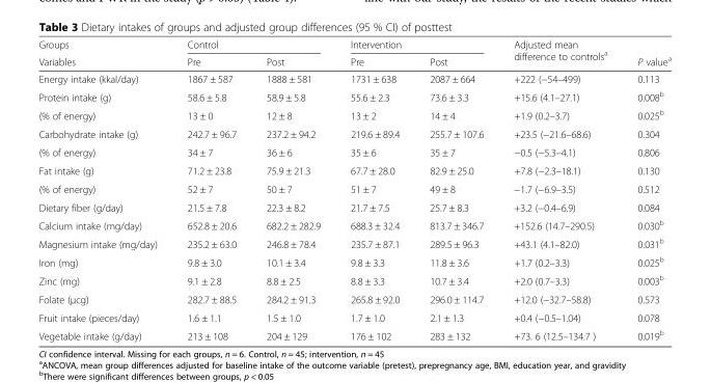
<table><thead><tr><td rowspan="2">Groups Variables</td><td colspan="2">Control</td><td colspan="2">Intervention</td><td rowspan="2">Adjusted mean difference to controls<sup>a</sup></td><td rowspan="2">P value<sup>a</sup></td></tr><tr><td>Pre</td><td>Post</td><td>Pre</td><td>Post</td></tr></thead><tbody><tr><td>Energy intake (kkal/day)</td><td>1867 ± 587</td><td>1888 ± 581</td><td>1731 ± 638</td><td>2087 ± 664</td><td>+222 (−54–499)</td><td>0.113</td></tr><tr><td>Protein intake (g)</td><td>58.6 ± 5.8</td><td>58.9 ± 5.8</td><td>55.6 ± 2.3</td><td>73.6 ± 3.3</td><td>+15.6 (4.1–27.1)</td><td>0.008<sup>b</sup></td></tr><tr><td>(% of energy)</td><td>13 ± 0</td><td>12 ± 8</td><td>13 ± 2</td><td>14 ± 4</td><td>+1.9 (0.2–3.7)</td><td>0.025<sup>b</sup></td></tr><tr><td>Carbohydrate intake (g)</td><td>242.7 ± 96.7</td><td>237.2 ± 94.2</td><td>219.6 ± 89.4</td><td>255.7 ± 107.6</td><td>+23.5 (−21.6–68.6)</td><td>0.304</td></tr><tr><td>(% of energy)</td><td>34 ± 7</td><td>36 ± 6</td><td>35 ± 6</td><td>35 ± 7</td><td>−0.5 (−5.3–4.1)</td><td>0.806</td></tr><tr><td>Fat intake (g)</td><td>71.2 ± 23.8</td><td>75.9 ± 21.3</td><td>67.7 ± 28.0</td><td>82.9 ± 25.0</td><td>+7.8 (−2.3–18.1)</td><td>0.130</td></tr><tr><td>(% of energy)</td><td>52 ± 7</td><td>50 ± 7</td><td>51 ± 7</td><td>49 ± 8</td><td>−1.7 (−6.9–3.5)</td><td>0.512</td></tr><tr><td>Dietary fiber (g/day)</td><td>21.5 ± 7.8</td><td>22.3 ± 8.2</td><td>21.7 ± 7.5</td><td>25.7 ± 8.3</td><td>+3.2 (−0.4–6.9)</td><td>0.084</td></tr><tr><td>Calcium intake (mg/day)</td><td>652.8 ± 20.6</td><td>682.2 ± 282.9</td><td>688.3 ± 32.4</td><td>813.7 ± 346.7</td><td>+152.6 (14.7–290.5)</td><td>0.030<sup>b</sup></td></tr><tr><td>Magnesium intake (mg/day)</td><td>235.2 ± 63.0</td><td>246.8 ± 78.4</td><td>235.7 ± 87.1</td><td>289.5 ± 96.3</td><td>+43.1 (4.1–82.0)</td><td>0.031<sup>b</sup></td></tr><tr><td>Iron (mg)</td><td>9.8 ± 3.0</td><td>10.1 ± 3.4</td><td>9.8 ± 3.3</td><td>11.8 ± 3.6</td><td>+1.7 (0.2–3.3)</td><td>0.025<sup>b</sup></td></tr><tr><td>Zinc (mg)</td><td>9.1 ± 2.8</td><td>8.8 ± 2.5</td><td>8.8 ± 3.3</td><td>10.7 ± 3.4</td><td>+2.0 (0.7–3.3)</td><td>0.003<sup>b</sup></td></tr><tr><td>Folate (μcg)</td><td>282.7 ± 88.5</td><td>284.2 ± 91.3</td><td>265.8 ± 92.0</td><td>296.0 ± 114.7</td><td>+12.0 (−32.7–58.8)</td><td>0.573</td></tr><tr><td>Fruit intake (pieces/day)</td><td>1.6 ± 1.1</td><td>1.5 ± 1.0</td><td>1.7 ± 1.0</td><td>2.1 ± 1.3</td><td>+0.4 (−0.5–1.04)</td><td>0.078</td></tr><tr><td>Vegetable intake (g/day)</td><td>213 ± 108</td><td>204 ± 129</td><td>176 ± 102</td><td>283 ± 132</td><td>+73. 6 (12.5–134.7 )</td><td>0.019<sup>b</sup></td></tr></tbody></table>